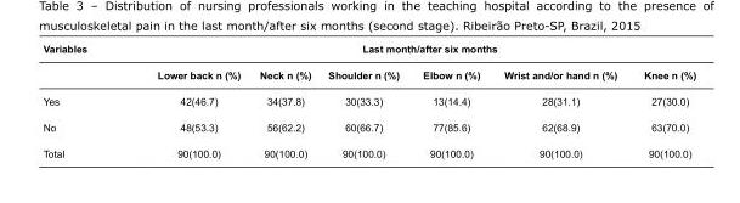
<table><tbody><tr><td rowspan="2">Variables</td><td colspan="6">Last month/after six months</td></tr><tr><td>Lower back n (%)</td><td>Neck n (%)</td><td>Shoulder n (%)</td><td>Elbow n (%)</td><td>Wrist and/or hand n (%)</td><td>Knee n (%)</td></tr><tr><td>Yes</td><td>42(46.7)</td><td>34(37.8)</td><td>30(33.3)</td><td>13(14.4)</td><td>28(31.1)</td><td>27(30.0)</td></tr><tr><td>No</td><td>48(53.3)</td><td>56(62.2)</td><td>60(66.7)</td><td>77(85.6)</td><td>62(68.9)</td><td>63(70.0)</td></tr><tr><td>Total</td><td>90(100.0)</td><td>90(100.0)</td><td>90(100.0)</td><td>90(100.0)</td><td>90(100.0)</td><td>90(100.0)</td></tr></tbody></table>